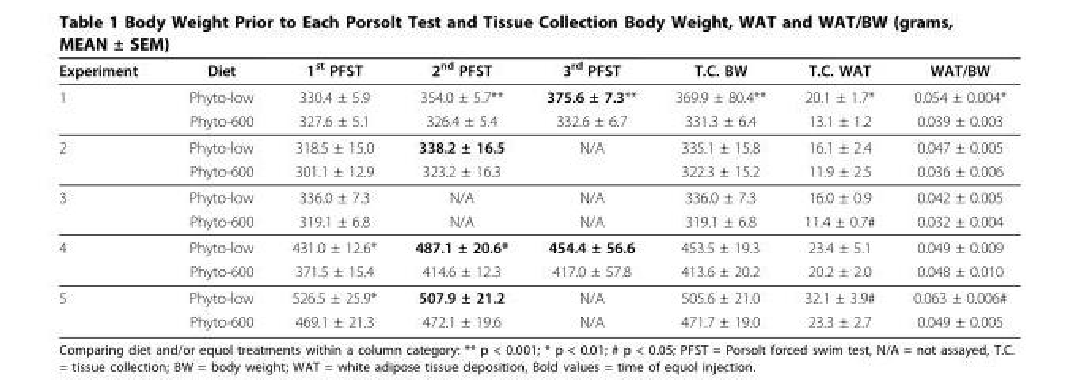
<table><thead><tr><td>Experiment</td><td>Diet</td><td>1<sup>st</sup> PFST</td><td>2<sup>nd</sup> PFST</td><td>3<sup>rd</sup> PFST</td><td>T.C. BW</td><td>T.C. WAT</td><td>WAT/BW</td></tr></thead><tbody><tr><td rowspan="2">1</td><td>Phyto-low</td><td>330.4 ± 5.9</td><td>354.0 ± 5.7**</td><td>375.6 ± 7.3**</td><td>369.9 ± 80.4**</td><td>20.1 ± 1.7*</td><td>0.054 ± 0.004*</td></tr><tr><td>Phyto-600</td><td>327.6 ± 5.1</td><td>326.4 ± 5.4</td><td>332.6 ± 6.7</td><td>331.3 ± 6.4</td><td>13.1 ± 1.2</td><td>0.039 ± 0.003</td></tr><tr><td rowspan="2">2</td><td>Phyto-low</td><td>318.5 ± 15.0</td><td>338.2 ± 16.5</td><td>N/A</td><td>335.1 ± 15.8</td><td>16.1 ± 2.4</td><td>0.047 ± 0.005</td></tr><tr><td>Phyto-600</td><td>301.1 ± 12.9</td><td>323.2 ± 16.3</td><td></td><td>322.3 ± 15.2</td><td>11.9 ± 2.5</td><td>0.036 ± 0.006</td></tr><tr><td rowspan="2">3</td><td>Phyto-low</td><td>336.0 ± 7.3</td><td>N/A</td><td>N/A</td><td>336.0 ± 7.3</td><td>16.0 ± 0.9</td><td>0.042 ± 0.005</td></tr><tr><td>Phyto-600</td><td>319.1 ± 6.8</td><td>N/A</td><td>N/A</td><td>319.1 ± 6.8</td><td>11.4 ± 0.7#</td><td>0.032 ± 0.004</td></tr><tr><td rowspan="2">4</td><td>Phyto-low</td><td>431.0 ± 12.6*</td><td>487.1 ± 20.6*</td><td>454.4 ± 56.6</td><td>453.5 ± 19.3</td><td>23.4 ± 5.1</td><td>0.049 ± 0.009</td></tr><tr><td>Phyto-600</td><td>371.5 ± 15.4</td><td>414.6 ± 12.3</td><td>417.0 ± 57.8</td><td>413.6 ± 20.2</td><td>20.2 ± 2.0</td><td>0.048 ± 0.010</td></tr><tr><td rowspan="2">5</td><td>Phyto-low</td><td>526.5 ± 25.9*</td><td>507.9 ± 21.2</td><td>N/A</td><td>505.6 ± 21.0</td><td>32.1 ± 3.9#</td><td>0.063 ± 0.006#</td></tr><tr><td>Phyto-600</td><td>469.1 ± 21.3</td><td>472.1 ± 19.6</td><td>N/A</td><td>471.7 ± 19.0</td><td>23.3 ± 2.7</td><td>0.049 ± 0.005</td></tr></tbody></table>